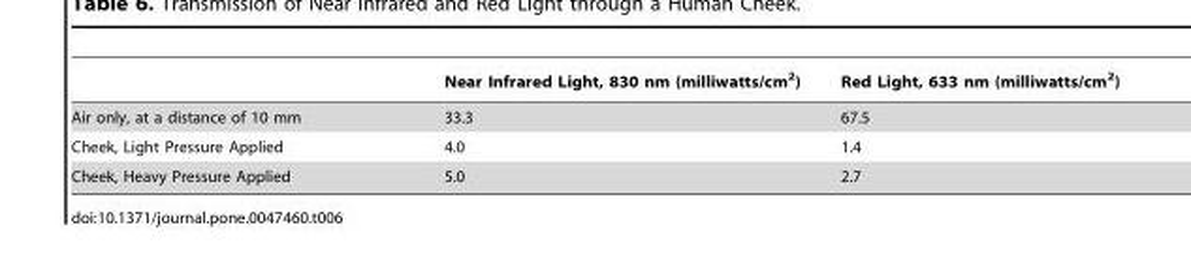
<table><thead><tr><td></td><td>Near Infrared Light, 830 nm (milliwatts/cm<sup>2</sup>)</td><td>Red Light, 633 nm (milliwatts/cm<sup>2</sup>)</td></tr></thead><tbody><tr><td>Air only, at a distance of 10 mm</td><td>33.3</td><td>67.5</td></tr><tr><td>Cheek, Light Pressure Applied</td><td>4.0</td><td>1.4</td></tr><tr><td>Cheek, Heavy Pressure Applied</td><td>5.0</td><td>2.7</td></tr></tbody></table>